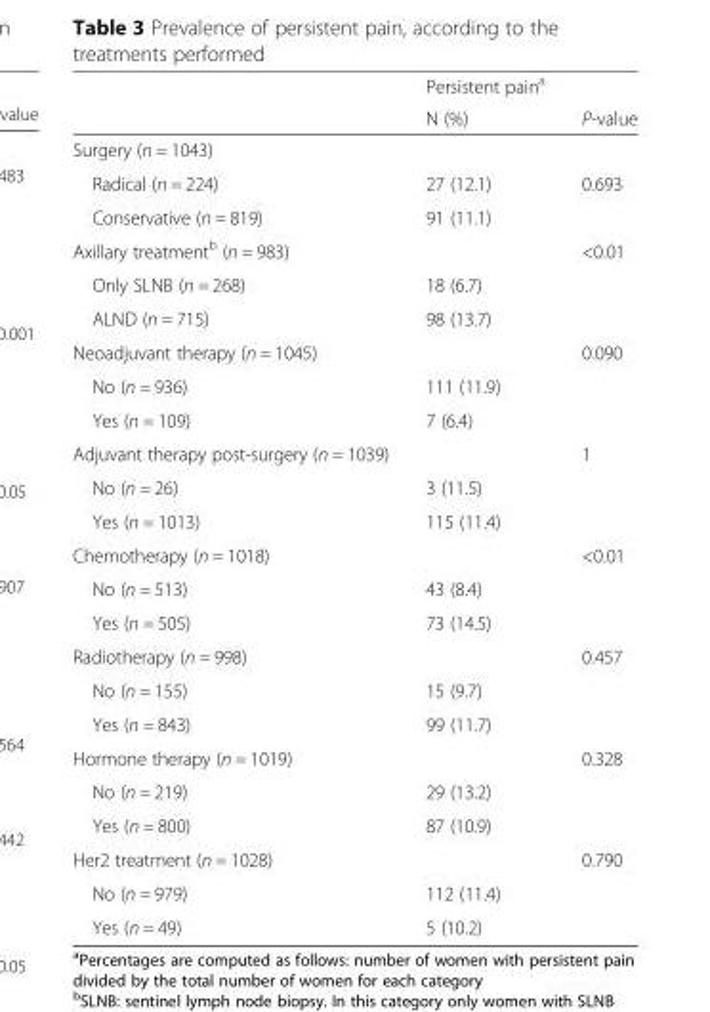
<table><thead><tr><td rowspan="2"></td><td rowspan="2">Persistent pain<sup>a</sup> N (%)</td><td rowspan="2">P-value</td></tr><tr></tr></thead><tbody><tr><td colspan="3">Surgery (n = 1043)</td></tr><tr><td>Radical (n = 224)</td><td>27 (12.1)</td><td>0.693</td></tr><tr><td>Conservative (n = 819)</td><td>91 (11.1)</td><td></td></tr><tr><td>Axillary treatment<sup>b</sup> (n = 983)</td><td></td><td>&lt;0.01</td></tr><tr><td>Only SLNB (n = 268)</td><td>18 (6.7)</td><td></td></tr><tr><td>ALND (n = 715)</td><td>98 (13.7)</td><td></td></tr><tr><td>Neoadjuvant therapy (n = 1045)</td><td></td><td>0.090</td></tr><tr><td>No (n = 936)</td><td>111 (11.9)</td><td></td></tr><tr><td>Yes (n = 109)</td><td>7 (6.4)</td><td></td></tr><tr><td>Adjuvant therapy post-surgery (n = 1039)</td><td></td><td>1</td></tr><tr><td>No (n = 26)</td><td>3 (11.5)</td><td></td></tr><tr><td>Yes (n = 1013)</td><td>115 (11.4)</td><td></td></tr><tr><td>Chemotherapy (n = 1018)</td><td></td><td>&lt;0.01</td></tr><tr><td>No (n = 513)</td><td>43 (8.4)</td><td></td></tr><tr><td>Yes (n = 505)</td><td>73 (14.5)</td><td></td></tr><tr><td>Radiotherapy (n = 998)</td><td></td><td>0.457</td></tr><tr><td>No (n = 155)</td><td>15 (9.7)</td><td></td></tr><tr><td>Yes (n = 843)</td><td>99 (11.7)</td><td></td></tr><tr><td>Hormone therapy (n = 1019)</td><td></td><td>0.328</td></tr><tr><td>No (n = 219)</td><td>29 (13.2)</td><td></td></tr><tr><td>Yes (n = 800)</td><td>87 (10.9)</td><td></td></tr><tr><td>Her2 treatment (n = 1028)</td><td></td><td>0.790</td></tr><tr><td>No (n = 979)</td><td>112 (11.4)</td><td></td></tr><tr><td>Yes (n = 49)</td><td>5 (10.2)</td><td></td></tr></tbody></table>